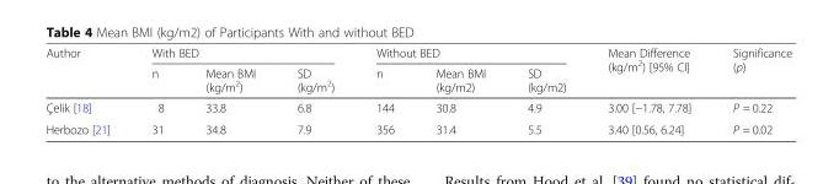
<table><thead><tr><td rowspan="2">Author</td><td colspan="3">With BED</td><td colspan="3">Without BED</td><td rowspan="2">Mean Difference (kg/m<sup>2</sup>) [95% CI]</td><td rowspan="2">Significance (p)</td></tr><tr><td>n</td><td>Mean BMI (kg/m<sup>2</sup>)</td><td>SD (kg/m<sup>2</sup>)</td><td>n</td><td>Mean BMI (kg/m2)</td><td>SD (kg/m2)</td></tr></thead><tbody><tr><td>Çelik [18]</td><td>8</td><td>33.8</td><td>6.8</td><td>144</td><td>30.8</td><td>4.9</td><td>3.00 [−1.78, 7.78]</td><td>P = 0.22</td></tr><tr><td>Herbozo [21]</td><td>31</td><td>34.8</td><td>7.9</td><td>356</td><td>31.4</td><td>5.5</td><td>3.40 [0.56, 6.24]</td><td>P = 0.02</td></tr></tbody></table>